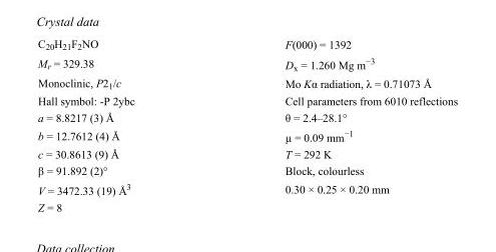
<table><tbody><tr><td>C<sub>20</sub>H<sub>21</sub>F<sub>2</sub>NO</td><td>F(000) = 1392</td></tr><tr><td>M<sub>r</sub> = 329.38</td><td>D<sub>x</sub> = 1.260 Mg m<sup>−3</sup></td></tr><tr><td>Monoclinic, P2<sub>1</sub>/c</td><td>Mo Kα radiation, λ = 0.71073 Å</td></tr><tr><td>Hall symbol: -P 2ybc</td><td>Cell parameters from 6010 reflections</td></tr><tr><td>a = 8.8217 (3) Å</td><td>θ = 2.4–28.1°</td></tr><tr><td>b = 12.7612 (4) Å</td><td>µ = 0.09 mm<sup>−1</sup></td></tr><tr><td>c = 30.8613 (9) Å</td><td>T = 292 K</td></tr><tr><td>β = 91.892 (2)°</td><td>Block, colourless</td></tr><tr><td>V = 3472.33 (19) Å<sup>3</sup></td><td>0.30 × 0.25 × 0.20 mm</td></tr><tr><td>Z = 8</td><td></td></tr></tbody></table>